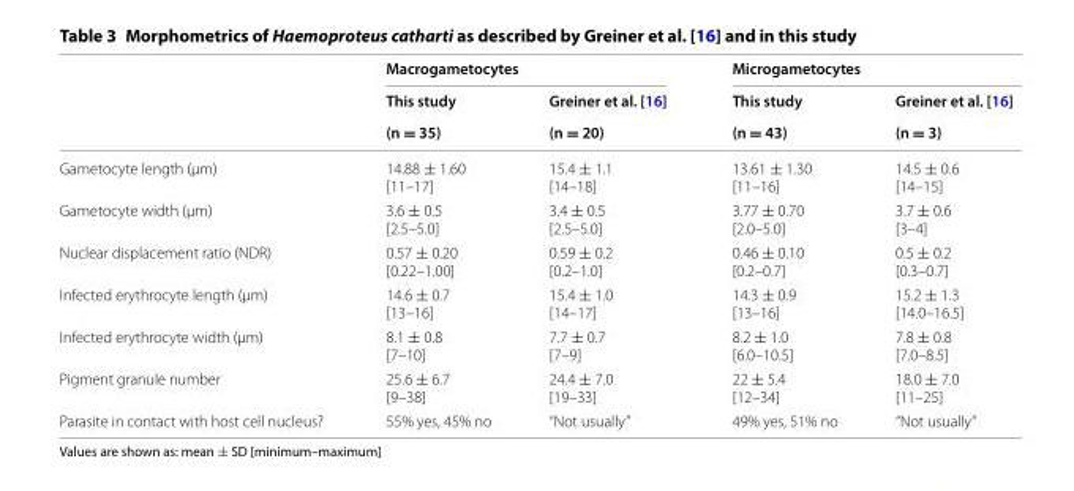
<table><thead><tr><td rowspan="3"></td><td colspan="2">Macrogametocytes</td><td colspan="2">Microgametocytes</td></tr><tr><td rowspan="2">This study (n = 35)</td><td rowspan="2">Greiner et al. [16] (n = 20)</td><td rowspan="2">This study (n = 43)</td><td rowspan="2">Greiner et al. [16] (n = 3)</td></tr><tr></tr></thead><tbody><tr><td>Gametocyte length (μm)</td><td>14.88 ± 1.60 [11–17]</td><td>15.4 ± 1.1 [14–18]</td><td>13.61 ± 1.30 [11–16]</td><td>14.5 ± 0.6 [14–15]</td></tr><tr><td>Gametocyte width (μm)</td><td>3.6 ± 0.5 [2.5–5.0]</td><td>3.4 ± 0.5 [2.5–5.0]</td><td>3.77 ± 0.70 [2.0–5.0]</td><td>3.7 ± 0.6 [3–4]</td></tr><tr><td>Nuclear displacement ratio (NDR)</td><td>0.57 ± 0.20 [0.22–1.00]</td><td>0.59 ± 0.2 [0.2–1.0]</td><td>0.46 ± 0.10 [0.2–0.7]</td><td>0.5 ± 0.2 [0.3–0.7]</td></tr><tr><td>Infected erythrocyte length (μm)</td><td>14.6 ± 0.7 [13–16]</td><td>15.4 ± 1.0 [14–17]</td><td>14.3 ± 0.9 [13–16]</td><td>15.2 ± 1.3 [14.0–16.5]</td></tr><tr><td>Infected erythrocyte width (μm)</td><td>8.1 ± 0.8 [7–10]</td><td>7.7 ± 0.7 [7–9]</td><td>8.2 ± 1.0 [6.0–10.5]</td><td>7.8 ± 0.8 [7.0–8.5]</td></tr><tr><td>Pigment granule number</td><td>25.6 ± 6.7 [9–38]</td><td>24.4 ± 7.0 [19–33]</td><td>22 ± 5.4 [12–34]</td><td>18.0 ± 7.0 [11–25]</td></tr><tr><td>Parasite in contact with host cell nucleus?</td><td>55% yes, 45% no</td><td>“Not usually”</td><td>49% yes, 51% no</td><td>“Not usually”</td></tr></tbody></table>